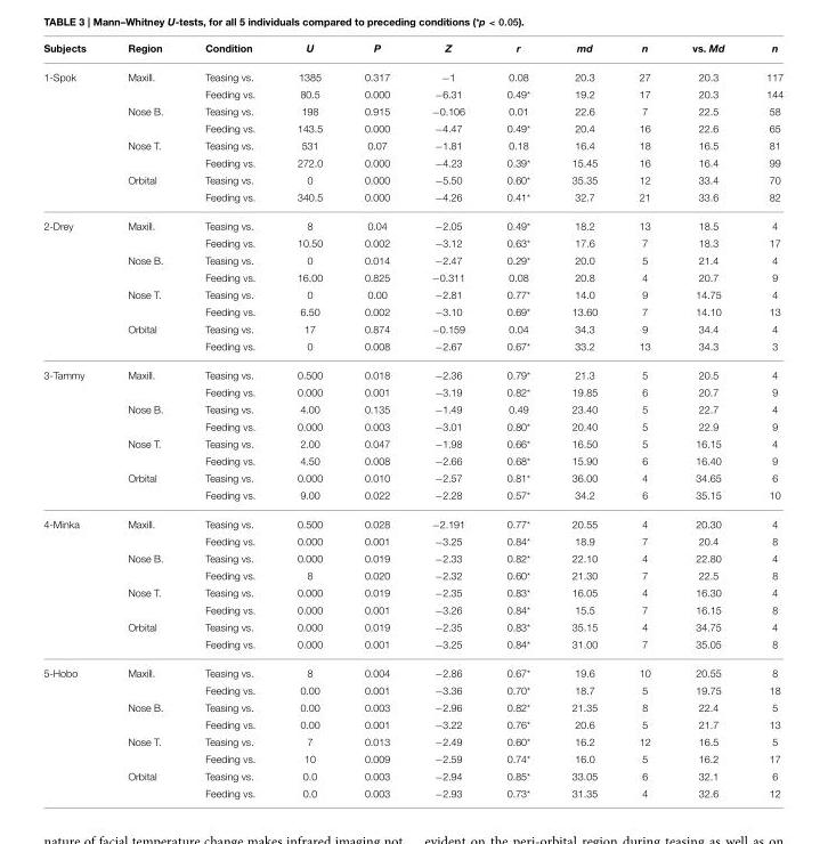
<table><thead><tr><td>Subjects</td><td>Region</td><td>Condition</td><td>U</td><td>P</td><td>Z</td><td>r</td><td>md</td><td>n</td><td>vs. Md</td><td>n</td></tr></thead><tbody><tr><td rowspan="8">1-Spok</td><td>Maxill.</td><td>Teasing vs.</td><td>1385</td><td>0.317</td><td>−1</td><td>0.08</td><td>20.3</td><td>27</td><td>20.3</td><td>117</td></tr><tr><td></td><td>Feeding vs.</td><td>80.5</td><td>0.000</td><td>−6.31</td><td>0.49*</td><td>19.2</td><td>17</td><td>20.3</td><td>144</td></tr><tr><td>Nose B.</td><td>Teasing vs.</td><td>198</td><td>0.915</td><td>−0.106</td><td>0.01</td><td>22.6</td><td>7</td><td>22.5</td><td>58</td></tr><tr><td></td><td>Feeding vs.</td><td>143.5</td><td>0.000</td><td>−4.47</td><td>0.49*</td><td>20.4</td><td>16</td><td>22.6</td><td>65</td></tr><tr><td>Nose T.</td><td>Teasing vs.</td><td>531</td><td>0.07</td><td>−1.81</td><td>0.18</td><td>16.4</td><td>18</td><td>16.5</td><td>81</td></tr><tr><td></td><td>Feeding vs.</td><td>272.0</td><td>0.000</td><td>−4.23</td><td>0.39*</td><td>15.45</td><td>16</td><td>16.4</td><td>99</td></tr><tr><td>Orbital</td><td>Teasing vs.</td><td>0</td><td>0.000</td><td>−5.50</td><td>0.60*</td><td>35.35</td><td>12</td><td>33.4</td><td>70</td></tr><tr><td></td><td>Feeding vs.</td><td>340.5</td><td>0.000</td><td>−4.26</td><td>0.41*</td><td>32.7</td><td>21</td><td>33.6</td><td>82</td></tr><tr><td rowspan="8">2-Drey</td><td>Maxill.</td><td>Teasing vs.</td><td>8</td><td>0.04</td><td>−2.05</td><td>0.49*</td><td>18.2</td><td>13</td><td>18.5</td><td>4</td></tr><tr><td></td><td>Feeding vs.</td><td>10.50</td><td>0.002</td><td>−3.12</td><td>0.63*</td><td>17.6</td><td>7</td><td>18.3</td><td>17</td></tr><tr><td>Nose B.</td><td>Teasing vs.</td><td>0</td><td>0.014</td><td>−2.47</td><td>0.29*</td><td>20.0</td><td>5</td><td>21.4</td><td>4</td></tr><tr><td></td><td>Feeding vs.</td><td>16.00</td><td>0.825</td><td>−0.311</td><td>0.08</td><td>20.8</td><td>4</td><td>20.7</td><td>9</td></tr><tr><td>Nose T.</td><td>Teasing vs.</td><td>0</td><td>0.00</td><td>−2.81</td><td>0.77*</td><td>14.0</td><td>9</td><td>14.75</td><td>4</td></tr><tr><td></td><td>Feeding vs.</td><td>6.50</td><td>0.002</td><td>−3.10</td><td>0.69*</td><td>13.60</td><td>7</td><td>14.10</td><td>13</td></tr><tr><td>Orbital</td><td>Teasing vs.</td><td>17</td><td>0.874</td><td>−0.159</td><td>0.04</td><td>34.3</td><td>9</td><td>34.4</td><td>4</td></tr><tr><td></td><td>Feeding vs.</td><td>0</td><td>0.008</td><td>−2.67</td><td>0.67*</td><td>33.2</td><td>13</td><td>34.3</td><td>3</td></tr><tr><td rowspan="8">3-Tammy</td><td>Maxill.</td><td>Teasing vs.</td><td>0.500</td><td>0.018</td><td>−2.36</td><td>0.79*</td><td>21.3</td><td>5</td><td>20.5</td><td>4</td></tr><tr><td></td><td>Feeding vs.</td><td>0.000</td><td>0.001</td><td>−3.19</td><td>0.82*</td><td>19.85</td><td>6</td><td>20.7</td><td>9</td></tr><tr><td>Nose B.</td><td>Teasing vs.</td><td>4.00</td><td>0.135</td><td>−1.49</td><td>0.49</td><td>23.40</td><td>5</td><td>22.7</td><td>4</td></tr><tr><td></td><td>Feeding vs.</td><td>0.000</td><td>0.003</td><td>−3.01</td><td>0.80*</td><td>20.40</td><td>5</td><td>22.9</td><td>9</td></tr><tr><td>Nose T.</td><td>Teasing vs.</td><td>2.00</td><td>0.047</td><td>−1.98</td><td>0.66*</td><td>16.50</td><td>5</td><td>16.15</td><td>4</td></tr><tr><td></td><td>Feeding vs.</td><td>4.50</td><td>0.008</td><td>−2.66</td><td>0.68*</td><td>15.90</td><td>6</td><td>16.40</td><td>9</td></tr><tr><td>Orbital</td><td>Teasing vs.</td><td>0.000</td><td>0.010</td><td>−2.57</td><td>0.81*</td><td>36.00</td><td>4</td><td>34.65</td><td>6</td></tr><tr><td></td><td>Feeding vs.</td><td>9.00</td><td>0.022</td><td>−2.28</td><td>0.57*</td><td>34.2</td><td>6</td><td>35.15</td><td>10</td></tr><tr><td rowspan="8">4-Minka</td><td>Maxill.</td><td>Teasing vs.</td><td>0.500</td><td>0.028</td><td>−2.191</td><td>0.77*</td><td>20.55</td><td>4</td><td>20.30</td><td>4</td></tr><tr><td></td><td>Feeding vs.</td><td>0.000</td><td>0.001</td><td>−3.25</td><td>0.84*</td><td>18.9</td><td>7</td><td>20.4</td><td>8</td></tr><tr><td>Nose B.</td><td>Teasing vs.</td><td>0.000</td><td>0.019</td><td>−2.33</td><td>0.82*</td><td>22.10</td><td>4</td><td>22.80</td><td>4</td></tr><tr><td></td><td>Feeding vs.</td><td>8</td><td>0.020</td><td>−2.32</td><td>0.60*</td><td>21.30</td><td>7</td><td>22.5</td><td>8</td></tr><tr><td>Nose T.</td><td>Teasing vs.</td><td>0.000</td><td>0.019</td><td>−2.35</td><td>0.83*</td><td>16.05</td><td>4</td><td>16.30</td><td>4</td></tr><tr><td></td><td>Feeding vs.</td><td>0.000</td><td>0.001</td><td>−3.26</td><td>0.84*</td><td>15.5</td><td>7</td><td>16.15</td><td>8</td></tr><tr><td>Orbital</td><td>Teasing vs.</td><td>0.000</td><td>0.019</td><td>−2.35</td><td>0.83*</td><td>35.15</td><td>4</td><td>34.75</td><td>4</td></tr><tr><td></td><td>Feeding vs.</td><td>0.000</td><td>0.001</td><td>−3.25</td><td>0.84*</td><td>31.00</td><td>7</td><td>35.05</td><td>8</td></tr><tr><td rowspan="8">5-Hobo</td><td>Maxill.</td><td>Teasing vs.</td><td>8</td><td>0.004</td><td>−2.86</td><td>0.67*</td><td>19.6</td><td>10</td><td>20.55</td><td>8</td></tr><tr><td></td><td>Feeding vs.</td><td>0.00</td><td>0.001</td><td>−3.36</td><td>0.70*</td><td>18.7</td><td>5</td><td>19.75</td><td>18</td></tr><tr><td>Nose B.</td><td>Teasing vs.</td><td>0.00</td><td>0.003</td><td>−2.96</td><td>0.82*</td><td>21.35</td><td>8</td><td>22.4</td><td>5</td></tr><tr><td></td><td>Feeding vs.</td><td>0.00</td><td>0.001</td><td>−3.22</td><td>0.76*</td><td>20.6</td><td>5</td><td>21.7</td><td>13</td></tr><tr><td>Nose T.</td><td>Teasing vs.</td><td>7</td><td>0.013</td><td>−2.49</td><td>0.60*</td><td>16.2</td><td>12</td><td>16.5</td><td>5</td></tr><tr><td></td><td>Feeding vs.</td><td>10</td><td>0.009</td><td>−2.59</td><td>0.74*</td><td>16.0</td><td>5</td><td>16.2</td><td>17</td></tr><tr><td>Orbital</td><td>Teasing vs.</td><td>0.0</td><td>0.003</td><td>−2.94</td><td>0.85*</td><td>33.05</td><td>6</td><td>32.1</td><td>6</td></tr><tr><td></td><td>Feeding vs.</td><td>0.0</td><td>0.003</td><td>−2.93</td><td>0.73*</td><td>31.35</td><td>4</td><td>32.6</td><td>12</td></tr></tbody></table>